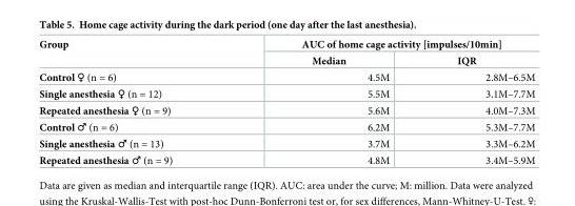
<table><thead><tr><td rowspan="2">Group</td><td colspan="2">AUC of home cage activity [impulses/10min]</td></tr><tr><td>Median</td><td>IQR</td></tr></thead><tbody><tr><td>Control ♀ (n = 6)</td><td>4.5M</td><td>2.8M–6.5M</td></tr><tr><td>Single anesthesia ♀ (n = 12)</td><td>5.5M</td><td>3.1M–7.7M</td></tr><tr><td>Repeated anesthesia ♀ (n = 9)</td><td>5.6M</td><td>4.0M–7.3M</td></tr><tr><td>Control ♂ (n = 6)</td><td>6.2M</td><td>5.3M–7.7M</td></tr><tr><td>Single anesthesia ♂ (n = 13)</td><td>3.7M</td><td>3.3M–6.2M</td></tr><tr><td>Repeated anesthesia ♂ (n = 9)</td><td>4.8M</td><td>3.4M–5.9M</td></tr></tbody></table>